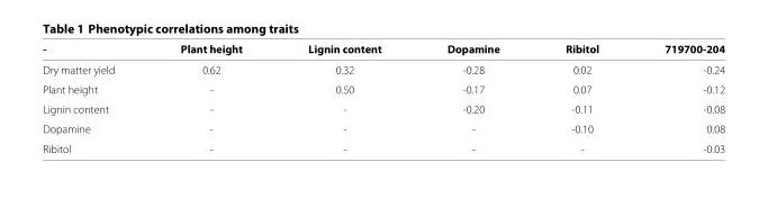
<table><thead><tr><td>-</td><td>Plant height</td><td>Lignin content</td><td>Dopamine</td><td>Ribitol</td><td>719700-204</td></tr></thead><tbody><tr><td>Dry matter yield</td><td>0.62</td><td>0.32</td><td>-0.28</td><td>0.02</td><td>-0.24</td></tr><tr><td>Plant height</td><td>-</td><td>0.50</td><td>-0.17</td><td>0.07</td><td>-0.12</td></tr><tr><td>Lignin content</td><td>-</td><td>-</td><td>-0.20</td><td>-0.11</td><td>-0.08</td></tr><tr><td>Dopamine</td><td>-</td><td>-</td><td>-</td><td>-0.10</td><td>0.08</td></tr><tr><td>Ribitol</td><td>-</td><td>-</td><td>-</td><td>-</td><td>-0.03</td></tr></tbody></table>